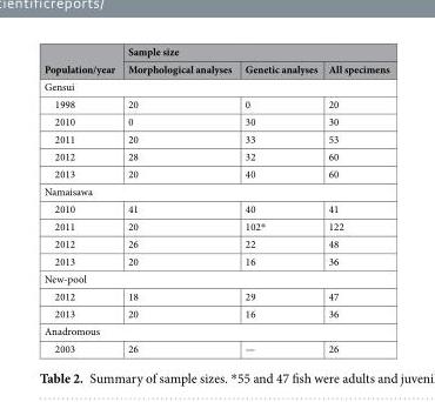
<table><thead><tr><td rowspan="2">Population/year</td><td colspan="3">Sample size</td></tr><tr><td>Morphological analyses</td><td>Genetic analyses</td><td>All specimens</td></tr></thead><tbody><tr><td colspan="4">Gensui</td></tr><tr><td>1998</td><td>20</td><td>0</td><td>20</td></tr><tr><td>2010</td><td>0</td><td>30</td><td>30</td></tr><tr><td>2011</td><td>20</td><td>33</td><td>53</td></tr><tr><td>2012</td><td>28</td><td>32</td><td>60</td></tr><tr><td>2013</td><td>20</td><td>40</td><td>60</td></tr><tr><td colspan="4">Namaisawa</td></tr><tr><td>2010</td><td>41</td><td>40</td><td>41</td></tr><tr><td>2011</td><td>20</td><td>102*</td><td>122</td></tr><tr><td>2012</td><td>26</td><td>22</td><td>48</td></tr><tr><td>2013</td><td>20</td><td>16</td><td>36</td></tr><tr><td colspan="4">New-pool</td></tr><tr><td>2012</td><td>18</td><td>29</td><td>47</td></tr><tr><td>2013</td><td>20</td><td>16</td><td>36</td></tr><tr><td colspan="4">Anadromous</td></tr><tr><td>2003</td><td>26</td><td>—</td><td>26</td></tr></tbody></table>